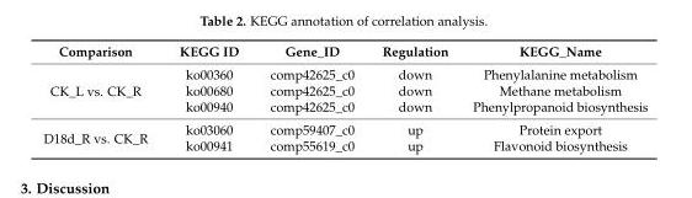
<table><thead><tr><td>Comparison</td><td>KEGG ID</td><td>Gene_ID</td><td>Regulation</td><td>KEGG_Name</td></tr></thead><tbody><tr><td rowspan="3">CK_L vs. CK_R</td><td>ko00360</td><td>comp42625_c0</td><td>down</td><td>Phenylalanine metabolism</td></tr><tr><td>ko00680</td><td>comp42625_c0</td><td>down</td><td>Methane metabolism</td></tr><tr><td>ko00940</td><td>comp42625_c0</td><td>down</td><td>Phenylpropanoid biosynthesis</td></tr><tr><td rowspan="2">D18d_R vs. CK_R</td><td>ko03060</td><td>comp59407_c0</td><td>up</td><td>Protein export</td></tr><tr><td>ko00941</td><td>comp55619_c0</td><td>up</td><td>Flavonoid biosynthesis</td></tr></tbody></table>